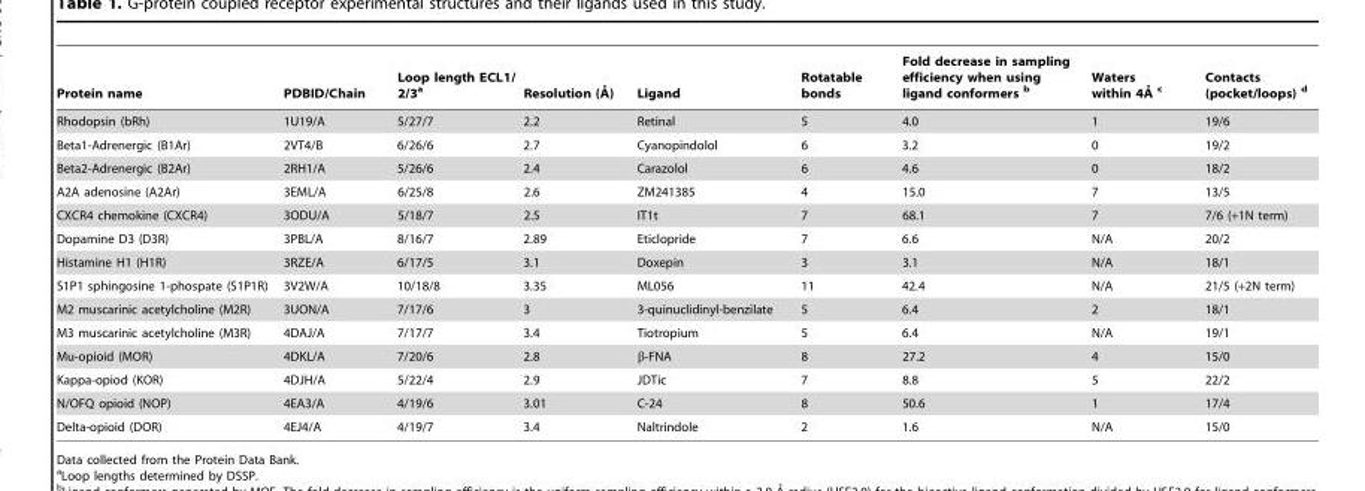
<table><thead><tr><td>Protein name</td><td>PDBID/Chain</td><td>Loop length ECL1/ 2/3<sup>a</sup></td><td>Resolution (A˚ )</td><td>Ligand</td><td>Rotatable bonds</td><td>Fold decrease in sampling efficiency when using ligand conformers b</td><td>Waters within 4A˚ c</td><td>Contacts (pocket/loops) d</td></tr></thead><tbody><tr><td>Rhodopsin (bRh)</td><td>1U19/A</td><td>5/27/7</td><td>2.2</td><td>Retinal</td><td>5</td><td>4.0</td><td>1</td><td>19/6</td></tr><tr><td>Beta1-Adrenergic (B1Ar)</td><td>2VT4/B</td><td>6/26/6</td><td>2.7</td><td>Cyanopindolol</td><td>6</td><td>3.2</td><td>0</td><td>19/2</td></tr><tr><td>Beta2-Adrenergic (B2Ar)</td><td>2RH1/A</td><td>5/26/6</td><td>2.4</td><td>Carazolol</td><td>6</td><td>4.6</td><td>0</td><td>18/2</td></tr><tr><td>A2A adenosine (A2Ar)</td><td>3EML/A</td><td>6/25/8</td><td>2.6</td><td>ZM241385</td><td>4</td><td>15.0</td><td>7</td><td>13/5</td></tr><tr><td>CXCR4 chemokine (CXCR4)</td><td>3ODU/A</td><td>5/18/7</td><td>2.5</td><td>IT1t</td><td>7</td><td>68.1</td><td>7</td><td>7/6 (+1N term)</td></tr><tr><td>Dopamine D3 (D3R)</td><td>3PBL/A</td><td>8/16/7</td><td>2.89</td><td>Eticlopride</td><td>7</td><td>6.6</td><td>N/A</td><td>20/2</td></tr><tr><td>Histamine H1 (H1R)</td><td>3RZE/A</td><td>6/17/5</td><td>3.1</td><td>Doxepin</td><td>3</td><td>3.1</td><td>N/A</td><td>18/1</td></tr><tr><td>S1P1 sphingosine 1-phospate (S1P1R)</td><td>3V2W/A</td><td>10/18/8</td><td>3.35</td><td>ML056</td><td>11</td><td>42.4</td><td>N/A</td><td>21/5 (+2N term)</td></tr><tr><td>M2 muscarinic acetylcholine (M2R)</td><td>3UON/A</td><td>7/17/6</td><td>3</td><td>3-quinuclidinyl-benzilate</td><td>5</td><td>6.4</td><td>2</td><td>18/1</td></tr><tr><td>M3 muscarinic acetylcholine (M3R)</td><td>4DAJ/A</td><td>7/17/7</td><td>3.4</td><td>Tiotropium</td><td>5</td><td>6.4</td><td>N/A</td><td>19/1</td></tr><tr><td>Mu-opioid (MOR)</td><td>4DKL/A</td><td>7/20/6</td><td>2.8</td><td>β-FNA</td><td>8</td><td>27.2</td><td>4</td><td>15/0</td></tr><tr><td>Kappa-opiod (KOR)</td><td>4DJH/A</td><td>5/22/4</td><td>2.9</td><td>JDTic</td><td>7</td><td>8.8</td><td>5</td><td>22/2</td></tr><tr><td>N/OFQ opioid (NOP)</td><td>4EA3/A</td><td>4/19/6</td><td>3.01</td><td>C-24</td><td>8</td><td>50.6</td><td>1</td><td>17/4</td></tr><tr><td>Delta-opioid (DOR)</td><td>4EJ4/A</td><td>4/19/7</td><td>3.4</td><td>Naltrindole</td><td>2</td><td>1.6</td><td>N/A</td><td>15/0</td></tr></tbody></table>